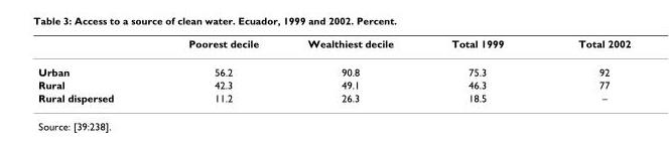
<table><thead><tr><td></td><td>Poorest decile</td><td>Wealthiest decile</td><td>Total 1999</td><td>Total 2002</td></tr></thead><tbody><tr><td>Urban</td><td>56.2</td><td>90.8</td><td>75.3</td><td>92</td></tr><tr><td>Rural</td><td>42.3</td><td>49.1</td><td>46.3</td><td>77</td></tr><tr><td>Rural dispersed</td><td>11.2</td><td>26.3</td><td>18.5</td><td>–</td></tr></tbody></table>